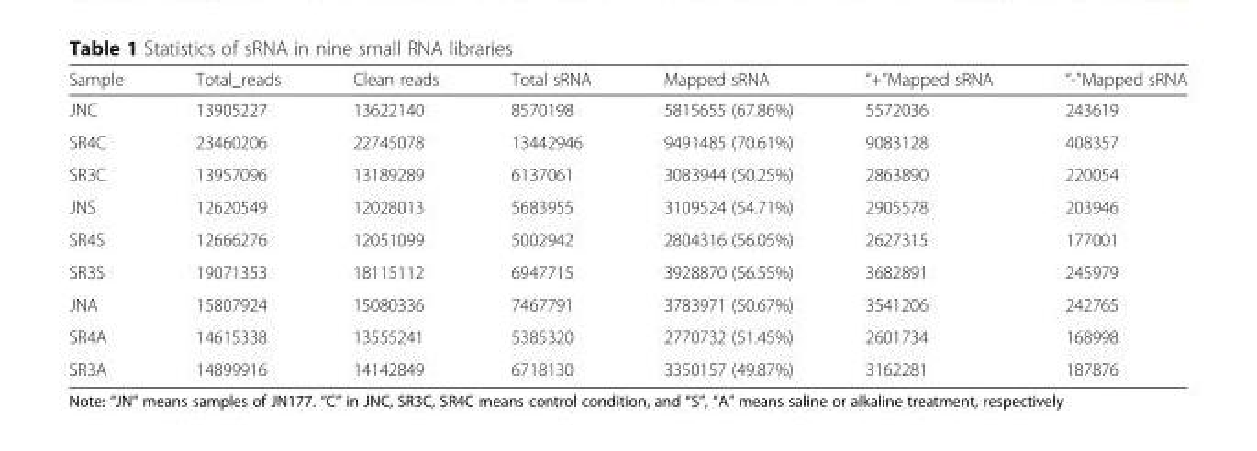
<table><thead><tr><td>Sample</td><td>Total_reads</td><td>Clean reads</td><td>Total sRNA</td><td>Mapped sRNA</td><td>“+”Mapped sRNA</td><td>“-”Mapped sRNA</td></tr></thead><tbody><tr><td>JNC</td><td>13905227</td><td>13622140</td><td>8570198</td><td>5815655 (67.86%)</td><td>5572036</td><td>243619</td></tr><tr><td>SR4C</td><td>23460206</td><td>22745078</td><td>13442946</td><td>9491485 (70.61%)</td><td>9083128</td><td>408357</td></tr><tr><td>SR3C</td><td>13957096</td><td>13189289</td><td>6137061</td><td>3083944 (50.25%)</td><td>2863890</td><td>220054</td></tr><tr><td>JNS</td><td>12620549</td><td>12028013</td><td>5683955</td><td>3109524 (54.71%)</td><td>2905578</td><td>203946</td></tr><tr><td>SR4S</td><td>12666276</td><td>12051099</td><td>5002942</td><td>2804316 (56.05%)</td><td>2627315</td><td>177001</td></tr><tr><td>SR3S</td><td>19071353</td><td>18115112</td><td>6947715</td><td>3928870 (56.55%)</td><td>3682891</td><td>245979</td></tr><tr><td>JNA</td><td>15807924</td><td>15080336</td><td>7467791</td><td>3783971 (50.67%)</td><td>3541206</td><td>242765</td></tr><tr><td>SR4A</td><td>14615338</td><td>13555241</td><td>5385320</td><td>2770732 (51.45%)</td><td>2601734</td><td>168998</td></tr><tr><td>SR3A</td><td>14899916</td><td>14142849</td><td>6718130</td><td>3350157 (49.87%)</td><td>3162281</td><td>187876</td></tr></tbody></table>